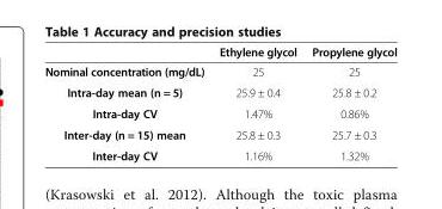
<table><thead><tr><td></td><td>Ethylene glycol</td><td>Propylene glycol</td></tr></thead><tbody><tr><td>Nominal concentration (mg/dL)</td><td>25</td><td>25</td></tr><tr><td>Intra-day mean (n = 5)</td><td>25.9 ± 0.4</td><td>25.8 ± 0.2</td></tr><tr><td>Intra-day CV</td><td>1.47%</td><td>0.86%</td></tr><tr><td>Inter-day (n = 15) mean</td><td>25.8 ± 0.3</td><td>25.7 ± 0.3</td></tr><tr><td>Inter-day CV</td><td>1.16%</td><td>1.32%</td></tr></tbody></table>